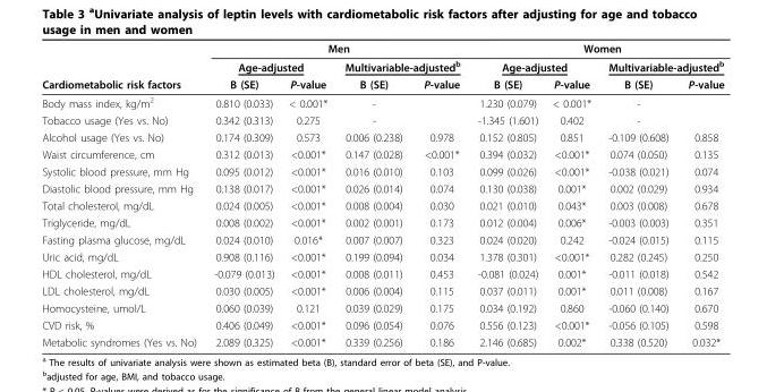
<table><thead><tr><td rowspan="3">Cardiometabolic risk factors</td><td colspan="4">Men</td><td colspan="4">Women</td></tr><tr><td colspan="2">Age-adjusted</td><td colspan="2">Multivariable-adjusted<sup>b</sup></td><td colspan="2">Age-adjusted</td><td colspan="2">Multivariable-adjusted<sup>b</sup></td></tr><tr><td>B (SE)</td><td>P-value</td><td>B (SE)</td><td>P-value</td><td>B (SE)</td><td>P-value</td><td>B (SE)</td><td>P-value</td></tr></thead><tbody><tr><td>Body mass index, kg/m<sup>2</sup></td><td>0.810 (0.033)</td><td>&lt; 0.001*</td><td>-</td><td></td><td>1.230 (0.079)</td><td>&lt; 0.001*</td><td>-</td><td></td></tr><tr><td>Tobacco usage (Yes vs. No)</td><td>0.342 (0.313)</td><td>0.275</td><td>-</td><td></td><td>-1.345 (1.601)</td><td>0.402</td><td>-</td><td></td></tr><tr><td>Alcohol usage (Yes vs. No)</td><td>0.174 (0.309)</td><td>0.573</td><td>0.006 (0.238)</td><td>0.978</td><td>0.152 (0.805)</td><td>0.851</td><td>-0.109 (0.608)</td><td>0.858</td></tr><tr><td>Waist circumference, cm</td><td>0.312 (0.013)</td><td>&lt;0.001*</td><td>0.147 (0.028)</td><td>&lt;0.001*</td><td>0.394 (0.032)</td><td>&lt;0.001*</td><td>0.074 (0.050)</td><td>0.135</td></tr><tr><td>Systolic blood pressure, mm Hg</td><td>0.095 (0.012)</td><td>&lt;0.001*</td><td>0.016 (0.010)</td><td>0.103</td><td>0.099 (0.026)</td><td>&lt;0.001*</td><td>-0.038 (0.021)</td><td>0.074</td></tr><tr><td>Diastolic blood pressure, mm Hg</td><td>0.138 (0.017)</td><td>&lt;0.001*</td><td>0.026 (0.014)</td><td>0.074</td><td>0.130 (0.038)</td><td>0.001*</td><td>0.002 (0.029)</td><td>0.934</td></tr><tr><td>Total cholesterol, mg/dL</td><td>0.024 (0.005)</td><td>&lt;0.001*</td><td>0.008 (0.004)</td><td>0.030</td><td>0.021 (0.010)</td><td>0.043*</td><td>0.003 (0.008)</td><td>0.678</td></tr><tr><td>Triglyceride, mg/dL</td><td>0.008 (0.002)</td><td>&lt;0.001*</td><td>0.002 (0.001)</td><td>0.173</td><td>0.012 (0.004)</td><td>0.006*</td><td>-0.003 (0.003)</td><td>0.351</td></tr><tr><td>Fasting plasma glucose, mg/dL</td><td>0.024 (0.010)</td><td>0.016*</td><td>0.007 (0.007)</td><td>0.323</td><td>0.024 (0.020)</td><td>0.242</td><td>-0.024 (0.015)</td><td>0.115</td></tr><tr><td>Uric acid, mg/dL</td><td>0.908 (0.116)</td><td>&lt;0.001*</td><td>0.199 (0.094)</td><td>0.034</td><td>1.378 (0.301)</td><td>&lt;0.001*</td><td>0.282 (0.245)</td><td>0.250</td></tr><tr><td>HDL cholesterol, mg/dL</td><td>-0.079 (0.013)</td><td>&lt;0.001*</td><td>0.008 (0.011)</td><td>0.453</td><td>-0.081 (0.024)</td><td>0.001*</td><td>-0.011 (0.018)</td><td>0.542</td></tr><tr><td>LDL cholesterol, mg/dL</td><td>0.030 (0.005)</td><td>&lt;0.001*</td><td>0.006 (0.004)</td><td>0.115</td><td>0.037 (0.011)</td><td>0.001*</td><td>0.011 (0.008)</td><td>0.167</td></tr><tr><td>Homocysteine, umol/L</td><td>0.060 (0.039)</td><td>0.121</td><td>0.039 (0.029)</td><td>0.175</td><td>0.034 (0.192)</td><td>0.860</td><td>-0.060 (0.140)</td><td>0.670</td></tr><tr><td>CVD risk, %</td><td>0.406 (0.049)</td><td>&lt;0.001*</td><td>0.096 (0.054)</td><td>0.076</td><td>0.556 (0.123)</td><td>&lt;0.001*</td><td>-0.056 (0.105)</td><td>0.598</td></tr><tr><td>Metabolic syndromes (Yes vs. No)</td><td>2.089 (0.325)</td><td>&lt;0.001*</td><td>0.339 (0.256)</td><td>0.186</td><td>2.146 (0.685)</td><td>0.002*</td><td>0.338 (0.520)</td><td>0.032*</td></tr></tbody></table>